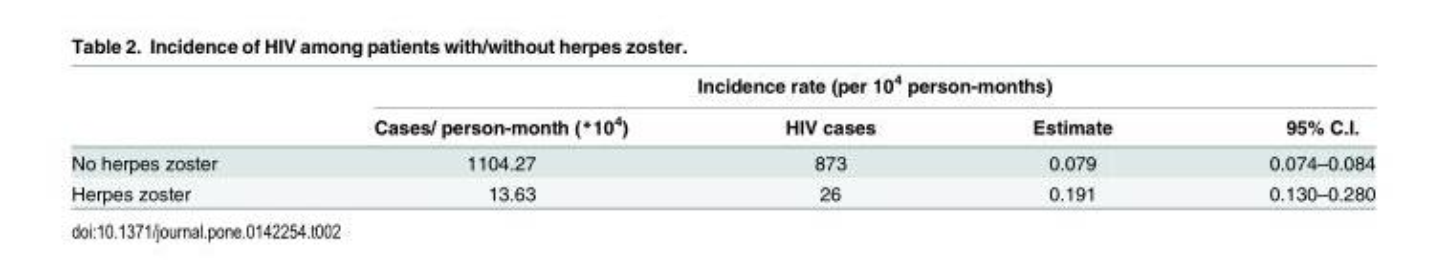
<table><thead><tr><td rowspan="2"></td><td colspan="4">Incidence rate (per 10<sup>4</sup> person-months)</td></tr><tr><td>Cases/ person-month (*10<sup>4</sup>)</td><td>HIV cases</td><td>Estimate</td><td>95% C.I.</td></tr></thead><tbody><tr><td>No herpes zoster</td><td>1104.27</td><td>873</td><td>0.079</td><td>0.074–0.084</td></tr><tr><td>Herpes zoster</td><td>13.63</td><td>26</td><td>0.191</td><td>0.130–0.280</td></tr></tbody></table>